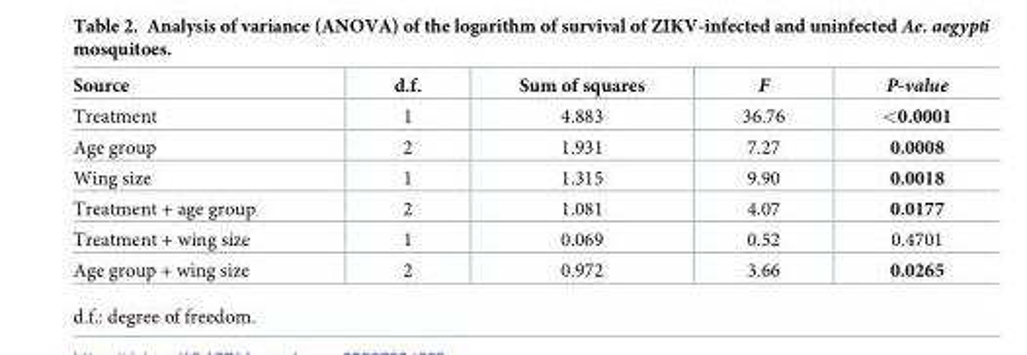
<table><thead><tr><td>Source</td><td>d.f.</td><td>Sum of squares</td><td>F</td><td>P-value</td></tr></thead><tbody><tr><td>Treatment</td><td>1</td><td>4.883</td><td>36.76</td><td>&lt;0.0001</td></tr><tr><td>Age group</td><td>2</td><td>1.931</td><td>7.27</td><td>0.0008</td></tr><tr><td>Wing size</td><td>1</td><td>1.315</td><td>9.90</td><td>0.0018</td></tr><tr><td>Treatment + age group</td><td>2</td><td>1.081</td><td>4.07</td><td>0.0177</td></tr><tr><td>Treatment + wing size</td><td>1</td><td>0.069</td><td>0.52</td><td>0.4701</td></tr><tr><td>Age group + wing size</td><td>2</td><td>0.972</td><td>3.66</td><td>0.0265</td></tr></tbody></table>